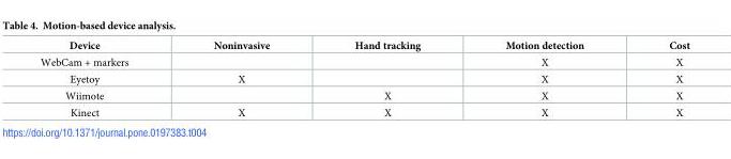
<table><thead><tr><td>Device</td><td>Noninvasive</td><td>Hand tracking</td><td>Motion detection</td><td>Cost</td></tr></thead><tbody><tr><td>WebCam + markers</td><td></td><td></td><td>X</td><td>X</td></tr><tr><td>Eyetoy</td><td>X</td><td></td><td>X</td><td>X</td></tr><tr><td>Wiimote</td><td></td><td>X</td><td>X</td><td>X</td></tr><tr><td>Kinect</td><td>X</td><td>X</td><td>X</td><td>X</td></tr></tbody></table>